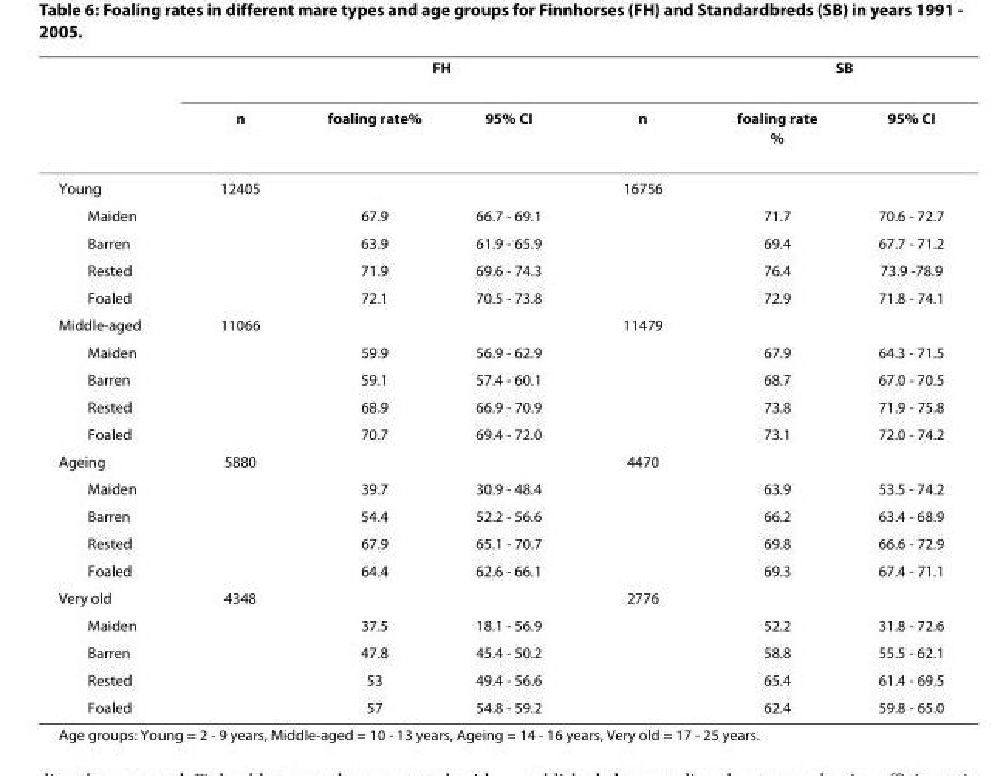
<table><thead><tr><td rowspan="2"></td><td colspan="4">FH</td><td colspan="2">SB</td></tr><tr><td>n</td><td>foaling rate%</td><td>95% CI</td><td>n</td><td>foaling rate %</td><td>95% CI</td></tr></thead><tbody><tr><td>Young</td><td>12405</td><td></td><td></td><td>16756</td><td></td><td></td></tr><tr><td>Maiden</td><td></td><td>67.9</td><td>66.7 - 69.1</td><td></td><td>71.7</td><td>70.6 - 72.7</td></tr><tr><td>Barren</td><td></td><td>63.9</td><td>61.9 - 65.9</td><td></td><td>69.4</td><td>67.7 - 71.2</td></tr><tr><td>Rested</td><td></td><td>71.9</td><td>69.6 - 74.3</td><td></td><td>76.4</td><td>73.9 -78.9</td></tr><tr><td>Foaled</td><td></td><td>72.1</td><td>70.5 - 73.8</td><td></td><td>72.9</td><td>71.8 - 74.1</td></tr><tr><td>Middle-aged</td><td>11066</td><td></td><td></td><td>11479</td><td></td><td></td></tr><tr><td>Maiden</td><td></td><td>59.9</td><td>56.9 - 62.9</td><td></td><td>67.9</td><td>64.3 - 71.5</td></tr><tr><td>Barren</td><td></td><td>59.1</td><td>57.4 - 60.1</td><td></td><td>68.7</td><td>67.0 - 70.5</td></tr><tr><td>Rested</td><td></td><td>68.9</td><td>66.9 - 70.9</td><td></td><td>73.8</td><td>71.9 - 75.8</td></tr><tr><td>Foaled</td><td></td><td>70.7</td><td>69.4 - 72.0</td><td></td><td>73.1</td><td>72.0 - 74.2</td></tr><tr><td>Ageing</td><td>5880</td><td></td><td></td><td>4470</td><td></td><td></td></tr><tr><td>Maiden</td><td></td><td>39.7</td><td>30.9 - 48.4</td><td></td><td>63.9</td><td>53.5 - 74.2</td></tr><tr><td>Barren</td><td></td><td>54.4</td><td>52.2 - 56.6</td><td></td><td>66.2</td><td>63.4 - 68.9</td></tr><tr><td>Rested</td><td></td><td>67.9</td><td>65.1 - 70.7</td><td></td><td>69.8</td><td>66.6 - 72.9</td></tr><tr><td>Foaled</td><td></td><td>64.4</td><td>62.6 - 66.1</td><td></td><td>69.3</td><td>67.4 - 71.1</td></tr><tr><td>Very old</td><td>4348</td><td></td><td></td><td>2776</td><td></td><td></td></tr><tr><td>Maiden</td><td></td><td>37.5</td><td>18.1 - 56.9</td><td></td><td>52.2</td><td>31.8 - 72.6</td></tr><tr><td>Barren</td><td></td><td>47.8</td><td>45.4 - 50.2</td><td></td><td>58.8</td><td>55.5 - 62.1</td></tr><tr><td>Rested</td><td></td><td>53</td><td>49.4 - 56.6</td><td></td><td>65.4</td><td>61.4 - 69.5</td></tr><tr><td>Foaled</td><td></td><td>57</td><td>54.8 - 59.2</td><td></td><td>62.4</td><td>59.8 - 65.0</td></tr></tbody></table>